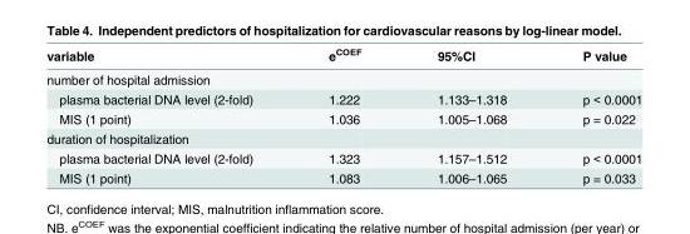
<table><thead><tr><td>variable</td><td>e<sup>COEF</sup></td><td>95%CI</td><td>P value</td></tr></thead><tbody><tr><td colspan="4">number of hospital admission</td></tr><tr><td>plasma bacterial DNA level (2-fold)</td><td>1.222</td><td>1.133–1.318</td><td>p &lt; 0.0001</td></tr><tr><td>MIS (1 point)</td><td>1.036</td><td>1.005–1.068</td><td>p = 0.022</td></tr><tr><td colspan="4">duration of hospitalization</td></tr><tr><td>plasma bacterial DNA level (2-fold)</td><td>1.323</td><td>1.157–1.512</td><td>p &lt; 0.0001</td></tr><tr><td>MIS (1 point)</td><td>1.083</td><td>1.006–1.065</td><td>p = 0.033</td></tr></tbody></table>